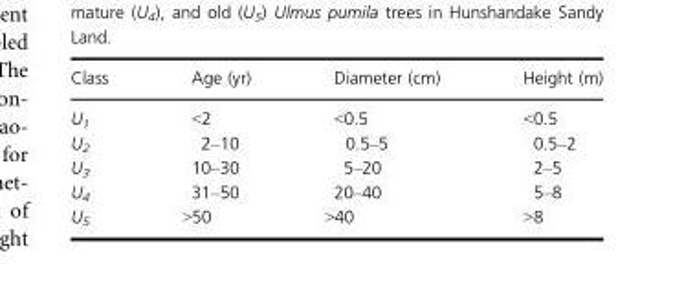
<table><thead><tr><td>Class</td><td>Age (yr)</td><td>Diameter (cm)</td><td>Height (m)</td></tr></thead><tbody><tr><td>U<sub>1</sub></td><td>&lt;2</td><td>&lt;0.5</td><td>&lt;0.5</td></tr><tr><td>U<sub>2</sub></td><td>2–10</td><td>0.5–5</td><td>0.5–2</td></tr><tr><td>U<sub>3</sub></td><td>10–30</td><td>5–20</td><td>2–5</td></tr><tr><td>U<sub>4</sub></td><td>31–50</td><td>20–40</td><td>5–8</td></tr><tr><td>U<sub>5</sub></td><td>&gt;50</td><td>&gt;40</td><td>&gt;8</td></tr></tbody></table>